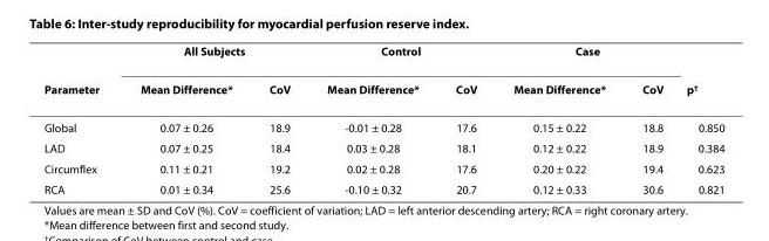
<table><thead><tr><td rowspan="2">Parameter</td><td colspan="2">All Subjects</td><td colspan="2">Control</td><td colspan="2">Case</td><td rowspan="2">p<sup>†</sup></td></tr><tr><td>Mean Difference*</td><td>CoV</td><td>Mean Difference*</td><td>CoV</td><td>Mean Difference*</td><td>CoV</td></tr></thead><tbody><tr><td>Global</td><td>0.07 ± 0.26</td><td>18.9</td><td>-0.01 ± 0.28</td><td>17.6</td><td>0.15 ± 0.22</td><td>18.8</td><td>0.850</td></tr><tr><td>LAD</td><td>0.07 ± 0.25</td><td>18.4</td><td>0.03 ± 0.28</td><td>18.1</td><td>0.12 ± 0.22</td><td>18.9</td><td>0.384</td></tr><tr><td>Circumflex</td><td>0.11 ± 0.21</td><td>19.2</td><td>0.02 ± 0.28</td><td>17.6</td><td>0.20 ± 0.22</td><td>19.4</td><td>0.623</td></tr><tr><td>RCA</td><td>0.01 ± 0.34</td><td>25.6</td><td>-0.10 ± 0.32</td><td>20.7</td><td>0.12 ± 0.33</td><td>30.6</td><td>0.821</td></tr></tbody></table>